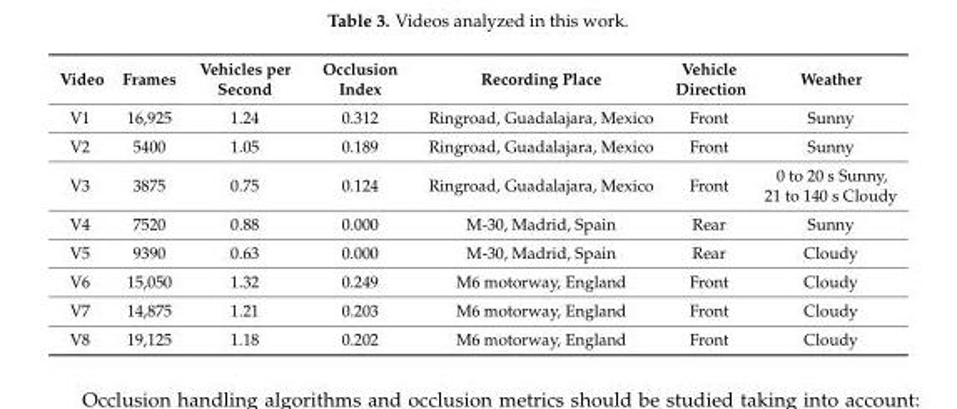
<table><thead><tr><td>Video</td><td>Frames</td><td>Vehicles per Second</td><td>Occlusion Index</td><td>Recording Place</td><td>Vehicle Direction</td><td>Weather</td></tr></thead><tbody><tr><td>V1</td><td>16,925</td><td>1.24</td><td>0.312</td><td>Ringroad, Guadalajara, Mexico</td><td>Front</td><td>Sunny</td></tr><tr><td>V2</td><td>5400</td><td>1.05</td><td>0.189</td><td>Ringroad, Guadalajara, Mexico</td><td>Front</td><td>Sunny</td></tr><tr><td>V3</td><td>3875</td><td>0.75</td><td>0.124</td><td>Ringroad, Guadalajara, Mexico</td><td>Front</td><td>0 to 20 s Sunny, 21 to 140 s Cloudy</td></tr><tr><td>V4</td><td>7520</td><td>0.88</td><td>0.000</td><td>M-30, Madrid, Spain</td><td>Rear</td><td>Sunny</td></tr><tr><td>V5</td><td>9390</td><td>0.63</td><td>0.000</td><td>M-30, Madrid, Spain</td><td>Rear</td><td>Cloudy</td></tr><tr><td>V6</td><td>15,050</td><td>1.32</td><td>0.249</td><td>M6 motorway, England</td><td>Front</td><td>Cloudy</td></tr><tr><td>V7</td><td>14,875</td><td>1.21</td><td>0.203</td><td>M6 motorway, England</td><td>Front</td><td>Cloudy</td></tr><tr><td>V8</td><td>19,125</td><td>1.18</td><td>0.202</td><td>M6 motorway, England</td><td>Front</td><td>Cloudy</td></tr></tbody></table>